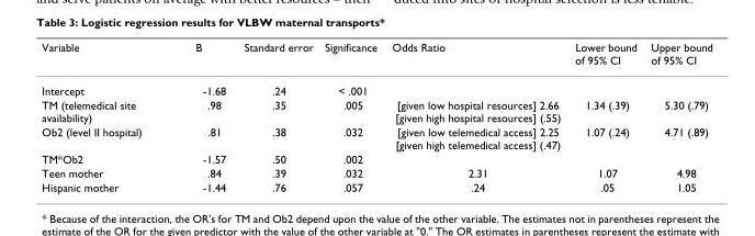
<table><thead><tr><td>Variable</td><td>B</td><td>Standard error</td><td>Significance</td><td>Odds Ratio</td><td>Lower bound of 95% CI</td><td>Upper bound of 95% CI</td></tr></thead><tbody><tr><td>Intercept</td><td>-1.68</td><td>.24</td><td>&lt; .001</td><td></td><td></td><td></td></tr><tr><td>TM (telemedical site availability)</td><td>.98</td><td>.35</td><td>.005</td><td>[given low hospital resources] 2.66 [given high hospital resources] (.55)</td><td>1.34 (.39)</td><td>5.30 (.79)</td></tr><tr><td>Ob2 (level II hospital)</td><td>.81</td><td>.38</td><td>.032</td><td>[given low telemedical access] 2.25 [given high telemedical access] (.47)</td><td>1.07 (.24)</td><td>4.71 (.89)</td></tr><tr><td>TM*Ob2</td><td>-1.57</td><td>.50</td><td>.002</td><td></td><td></td><td></td></tr><tr><td>Teen mother</td><td>.84</td><td>.39</td><td>.032</td><td>2.31</td><td>1.07</td><td>4.98</td></tr><tr><td>Hispanic mother</td><td>-1.44</td><td>.76</td><td>.057</td><td>.24</td><td>.05</td><td>1.05</td></tr></tbody></table>